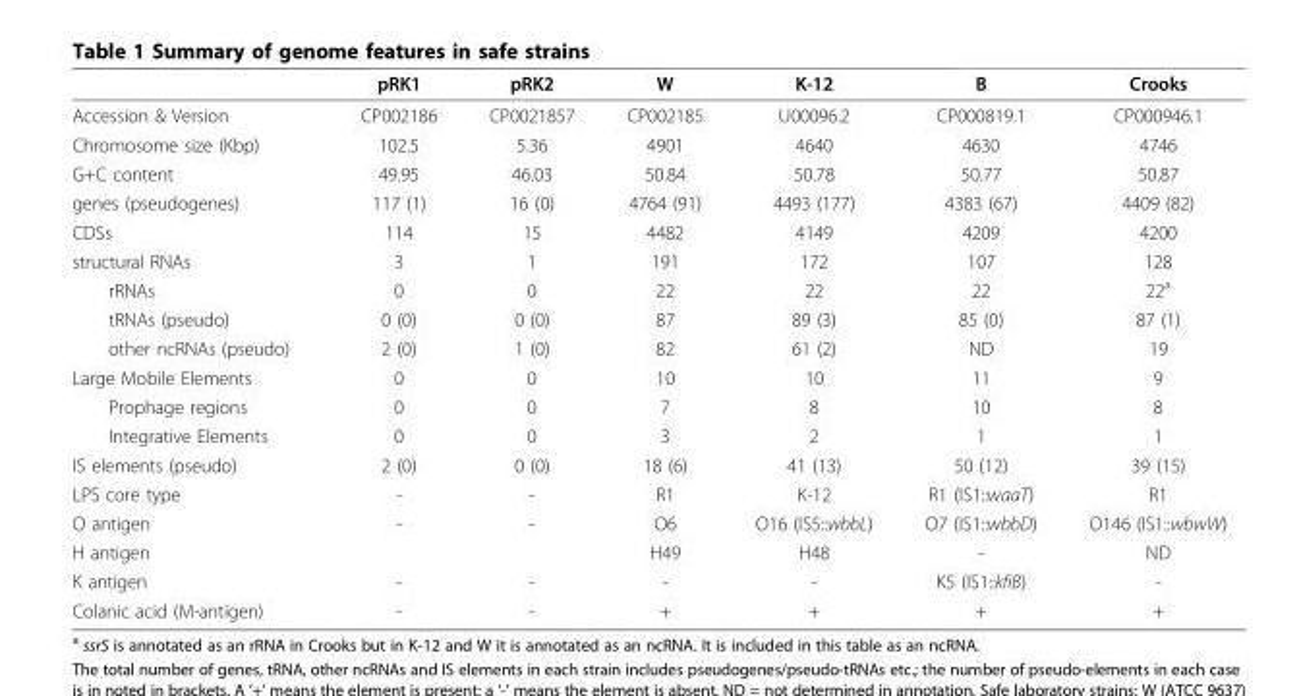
<table><thead><tr><td></td><td>pRK1</td><td>pRK2</td><td>W</td><td>K-12</td><td>B</td><td>Crooks</td></tr></thead><tbody><tr><td>Accession &amp; Version</td><td>CP002186</td><td>CP0021857</td><td>CP002185</td><td>U00096.2</td><td>CP000819.1</td><td>CP000946.1</td></tr><tr><td>Chromosome size (Kbp)</td><td>102.5</td><td>5.36</td><td>4901</td><td>4640</td><td>4630</td><td>4746</td></tr><tr><td>G+C content</td><td>49.95</td><td>46.03</td><td>50.84</td><td>50.78</td><td>50.77</td><td>50.87</td></tr><tr><td>genes (pseudogenes)</td><td>117 (1)</td><td>16 (0)</td><td>4764 (91)</td><td>4493 (177)</td><td>4383 (67)</td><td>4409 (82)</td></tr><tr><td>CDSs</td><td>114</td><td>15</td><td>4482</td><td>4149</td><td>4209</td><td>4200</td></tr><tr><td>structural RNAs</td><td>3</td><td>1</td><td>191</td><td>172</td><td>107</td><td>128</td></tr><tr><td>rRNAs</td><td>0</td><td>0</td><td>22</td><td>22</td><td>22</td><td>22<sup>a</sup></td></tr><tr><td>tRNAs (pseudo)</td><td>0 (0)</td><td>0 (0)</td><td>87</td><td>89 (3)</td><td>85 (0)</td><td>87 (1)</td></tr><tr><td>other ncRNAs (pseudo)</td><td>2 (0)</td><td>1 (0)</td><td>82</td><td>61 (2)</td><td>ND</td><td>19</td></tr><tr><td>Large Mobile Elements</td><td>0</td><td>0</td><td>10</td><td>10</td><td>11</td><td>9</td></tr><tr><td>Prophage regions</td><td>0</td><td>0</td><td>7</td><td>8</td><td>10</td><td>8</td></tr><tr><td>Integrative Elements</td><td>0</td><td>0</td><td>3</td><td>2</td><td>1</td><td>1</td></tr><tr><td>IS elements (pseudo)</td><td>2 (0)</td><td>0 (0)</td><td>18 (6)</td><td>41 (13)</td><td>50 (12)</td><td>39 (15)</td></tr><tr><td>LPS core type</td><td>-</td><td>-</td><td>R1</td><td>K-12</td><td>R1 (IS1::waaT)</td><td>R1</td></tr><tr><td>O antigen</td><td>-</td><td>-</td><td>O6</td><td>O16 (IS5::wbbL)</td><td>O7 (IS1::wbbD)</td><td>O146 (IS1::wbwW)</td></tr><tr><td>H antigen</td><td></td><td></td><td>H49</td><td>H48</td><td>-</td><td>ND</td></tr><tr><td>K antigen</td><td>-</td><td>-</td><td>-</td><td>-</td><td>K5 (IS1::kfiB)</td><td>-</td></tr><tr><td>Colanic acid (M-antigen)</td><td>-</td><td>-</td><td>+</td><td>+</td><td>+</td><td>+</td></tr></tbody></table>